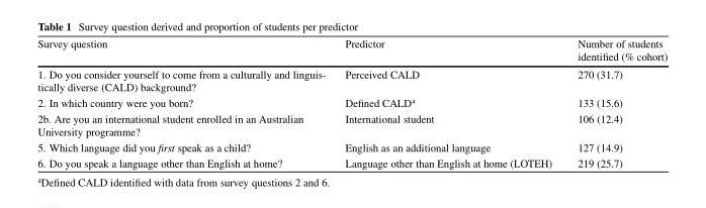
<table><thead><tr><td>Survey question</td><td>Predictor</td><td>Number of students identified (% cohort)</td></tr></thead><tbody><tr><td>1. Do you consider yourself to come from a culturally and linguis- tically diverse (CALD) background?</td><td>Perceived CALD</td><td>270 (31.7)</td></tr><tr><td>2. In which country were you born?</td><td>Defined CALD<sup>a</sup></td><td>133 (15.6)</td></tr><tr><td>2b. Are you an international student enrolled in an Australian University programme?</td><td>International student</td><td>106 (12.4)</td></tr><tr><td>5. Which language did you first speak as a child?</td><td>English as an additional language</td><td>127 (14.9)</td></tr><tr><td>6. Do you speak a language other than English at home?</td><td>Language other than English at home (LOTEH)</td><td>219 (25.7)</td></tr></tbody></table>